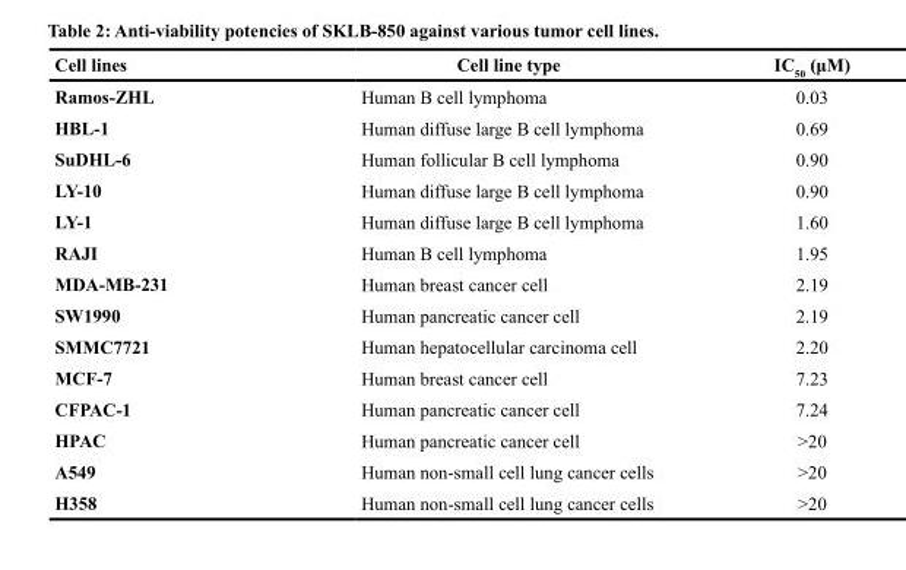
<table><thead><tr><td>Cell lines</td><td>Cell line type</td><td>IC<sub>50</sub> (μM)</td></tr></thead><tbody><tr><td>Ramos-ZHL</td><td>Human B cell lymphoma</td><td>0.03</td></tr><tr><td>HBL-1</td><td>Human diffuse large B cell lymphoma</td><td>0.69</td></tr><tr><td>SuDHL-6</td><td>Human follicular B cell lymphoma</td><td>0.90</td></tr><tr><td>LY-10</td><td>Human diffuse large B cell lymphoma</td><td>0.90</td></tr><tr><td>LY-1</td><td>Human diffuse large B cell lymphoma</td><td>1.60</td></tr><tr><td>RAJI</td><td>Human B cell lymphoma</td><td>1.95</td></tr><tr><td>MDA-MB-231</td><td>Human breast cancer cell</td><td>2.19</td></tr><tr><td>SW1990</td><td>Human pancreatic cancer cell</td><td>2.19</td></tr><tr><td>SMMC7721</td><td>Human hepatocellular carcinoma cell</td><td>2.20</td></tr><tr><td>MCF-7</td><td>Human breast cancer cell</td><td>7.23</td></tr><tr><td>CFPAC-1</td><td>Human pancreatic cancer cell</td><td>7.24</td></tr><tr><td>HPAC</td><td>Human pancreatic cancer cell</td><td>&gt;20</td></tr><tr><td>A549</td><td>Human non-small cell lung cancer cells</td><td>&gt;20</td></tr><tr><td>H358</td><td>Human non-small cell lung cancer cells</td><td>&gt;20</td></tr></tbody></table>